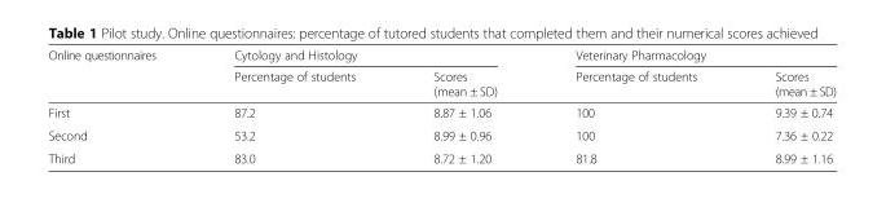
<table><thead><tr><td rowspan="2">Online questionnaires</td><td colspan="2">Cytology and Histology</td><td colspan="2">Veterinary Pharmacology</td></tr><tr><td>Percentage of students</td><td>Scores (mean ± SD)</td><td>Percentage of students</td><td>Scores (mean ± SD)</td></tr></thead><tbody><tr><td>First</td><td>87.2</td><td>8.87 ± 1.06</td><td>100</td><td>9.39 ± 0.74</td></tr><tr><td>Second</td><td>53.2</td><td>8.99 ± 0.96</td><td>100</td><td>7.36 ± 0.22</td></tr><tr><td>Third</td><td>83.0</td><td>8.72 ± 1.20</td><td>81.8</td><td>8.99 ± 1.16</td></tr></tbody></table>